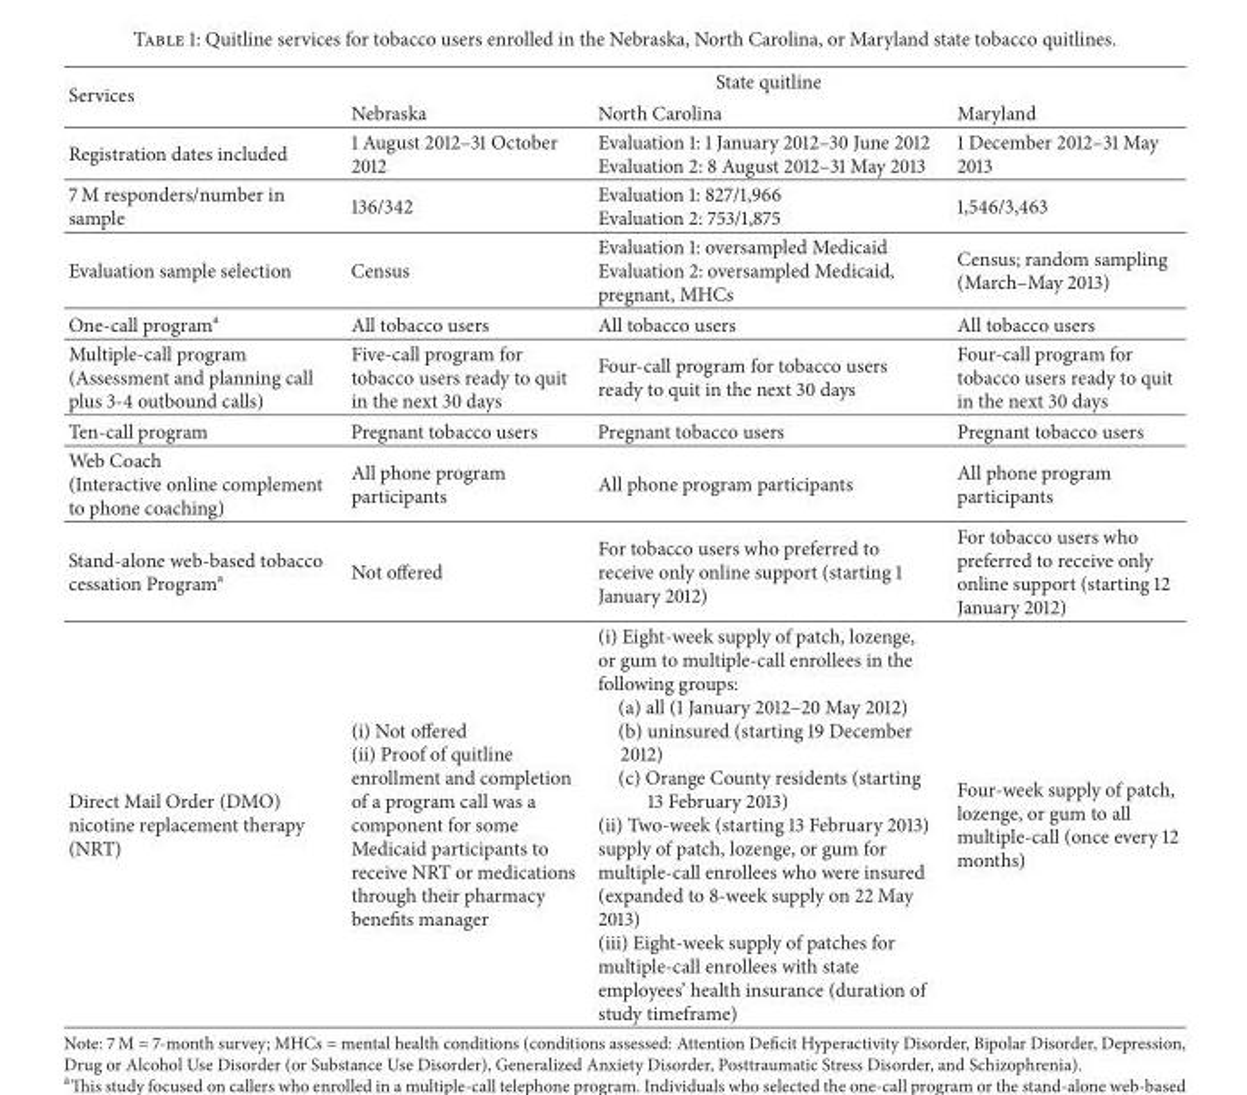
<table><thead><tr><td rowspan="2">Services</td><td colspan="3">State quitline</td></tr><tr><td>Nebraska</td><td>North Carolina</td><td>Maryland</td></tr></thead><tbody><tr><td>Registration dates included</td><td>1 August 2012–31 October 2012</td><td>Evaluation 1: 1 January 2012–30 June 2012 Evaluation 2: 8 August 2012–31 May 2013</td><td>1 December 2012–31 May 2013</td></tr><tr><td>7 M responders/number in sample</td><td>136/342</td><td>Evaluation 1: 827/1,966 Evaluation 2: 753/1,875</td><td>1,546/3,463</td></tr><tr><td>Evaluation sample selection</td><td>Census</td><td>Evaluation 1: oversampled Medicaid Evaluation 2: oversampled Medicaid, pregnant, MHCs</td><td>Census; random sampling (March–May 2013)</td></tr><tr><td>One-call program<sup>a</sup></td><td>All tobacco users</td><td>All tobacco users</td><td>All tobacco users</td></tr><tr><td>Multiple-call program (Assessment and planning call plus 3-4 outbound calls)</td><td>Five-call program for tobacco users ready to quit in the next 30 days</td><td>Four-call program for tobacco users ready to quit in the next 30 days</td><td>Four-call program for tobacco users ready to quit in the next 30 days</td></tr><tr><td>Ten-call program</td><td>Pregnant tobacco users</td><td>Pregnant tobacco users</td><td>Pregnant tobacco users</td></tr><tr><td>Web Coach (Interactive online complement to phone coaching)</td><td>All phone program participants</td><td>All phone program participants</td><td>All phone program participants</td></tr><tr><td>Stand-alone web-based tobacco cessation Program<sup>a</sup></td><td>Not offered</td><td>For tobacco users who preferred to receive only online support (starting 1 January 2012)</td><td>For tobacco users who preferred to receive only online support (starting 12 January 2012)</td></tr><tr><td>Direct Mail Order (DMO) nicotine replacement therapy (NRT)</td><td>(i) Not offered (ii) Proof of quitline enrollment and completion of a program call was a component for some Medicaid participants to receive NRT or medications through their pharmacy benefits manager</td><td>(i) Eight-week supply of patch, lozenge, or gum to multiple-call enrollees in the following groups: (a) all (1 January 2012–20 May 2012) (b) uninsured (starting 19 December 2012) (c) Orange County residents (starting 13 February 2013) (ii) Two-week (starting 13 February 2013) supply of patch, lozenge, or gum for multiple-call enrollees who were insured (expanded to 8-week supply on 22 May 2013) (iii) Eight-week supply of patches for multiple-call enrollees with state employees’ health insurance (duration of study timeframe)</td><td>Four-week supply of patch, lozenge, or gum to all multiple-call (once every 12 months)</td></tr></tbody></table>